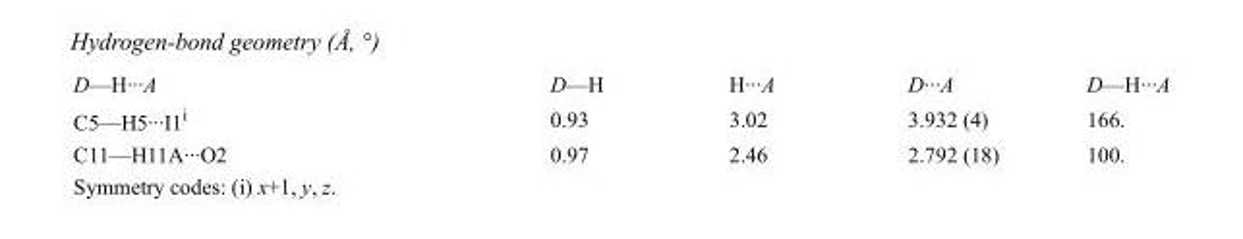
<table><tbody><tr><td>D—H···A</td><td>D—H</td><td>H···A</td><td>D···A</td><td>D—H···A</td></tr><tr><td>C5—H5···I1<sup>i</sup></td><td>0.93</td><td>3.02</td><td>3.932 (4)</td><td>166.</td></tr><tr><td>C11—H11A···O2</td><td>0.97</td><td>2.46</td><td>2.792 (18)</td><td>100.</td></tr></tbody></table>